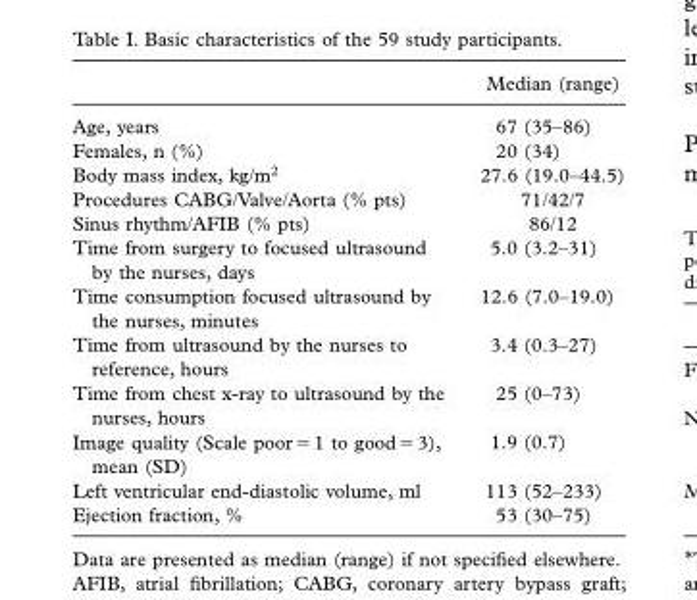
<table><thead><tr><td></td><td>Median (range)</td></tr></thead><tbody><tr><td>Age, years</td><td>67 (35 – 86)</td></tr><tr><td>Females, n (%)</td><td>20 (34)</td></tr><tr><td>Body mass index, kg/m <sup>2</sup></td><td>27.6 (19.0 – 44.5)</td></tr><tr><td>Procedures CABG/Valve/Aorta (% pts)</td><td>71/42/7</td></tr><tr><td>Sinus rhythm/AFIB (% pts)</td><td>86/12</td></tr><tr><td>Time from surgery to focused ultrasound by the nurses, days</td><td>5.0 (3.2 – 31)</td></tr><tr><td>Time consumption focused ultrasound by the nurses, minutes</td><td>12.6 (7.0 – 19.0)</td></tr><tr><td>Time from ultrasound by the nurses to reference, hours</td><td>3.4 (0.3 – 27)</td></tr><tr><td>Time from chest x-ray to ultrasound by the nurses, hours</td><td>25 (0 – 73)</td></tr><tr><td>Image quality (Scale poor = 1 to good = 3), mean (SD)</td><td>1.9 (0.7)</td></tr><tr><td>Left ventricular end-diastolic volume, ml</td><td>113 (52 – 233)</td></tr><tr><td>Ejection fraction, %</td><td>53 (30 – 75)</td></tr></tbody></table>